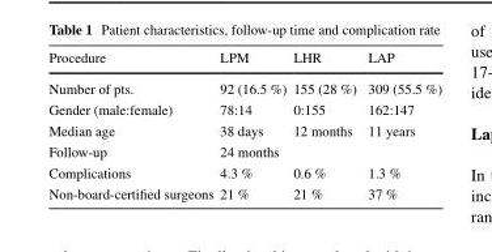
<table><thead><tr><td>Procedure</td><td>LPM</td><td>LHR</td><td>LAP</td></tr></thead><tbody><tr><td>Number of pts.</td><td>92 (16.5 %)</td><td>155 (28 %)</td><td>309 (55.5 %)</td></tr><tr><td>Gender (male:female)</td><td>78:14</td><td>0:155</td><td>162:147</td></tr><tr><td>Median age</td><td>38 days</td><td>12 months</td><td>11 years</td></tr><tr><td>Follow-up</td><td colspan="3">24 months</td></tr><tr><td>Complications</td><td>4.3 %</td><td>0.6 %</td><td>1.3 %</td></tr><tr><td>Non-board-certified surgeons</td><td>21 %</td><td>21 %</td><td>37 %</td></tr></tbody></table>